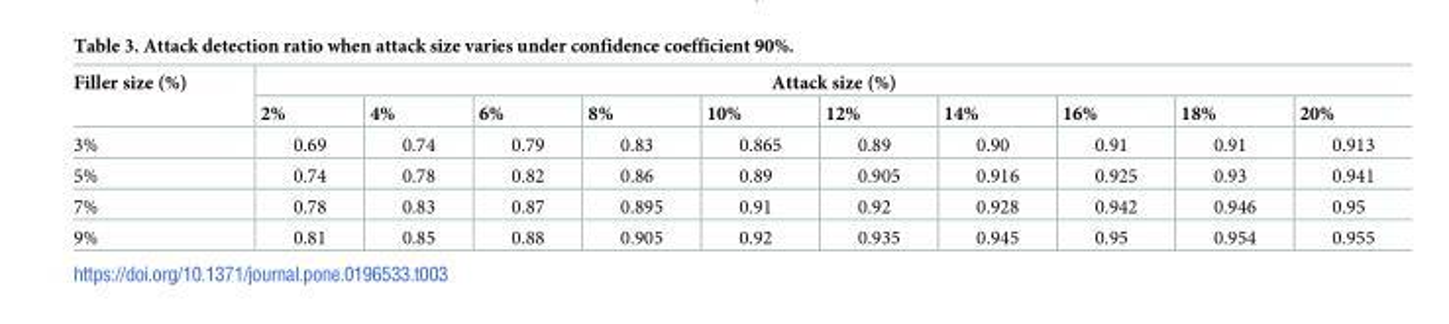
<table><thead><tr><td rowspan="2">Filler size (%)</td><td colspan="10">Attack size (%)</td></tr><tr><td>2%</td><td>4%</td><td>6%</td><td>8%</td><td>10%</td><td>12%</td><td>14%</td><td>16%</td><td>18%</td><td>20%</td></tr></thead><tbody><tr><td>3%</td><td>0.69</td><td>0.74</td><td>0.79</td><td>0.83</td><td>0.865</td><td>0.89</td><td>0.90</td><td>0.91</td><td>0.91</td><td>0.913</td></tr><tr><td>5%</td><td>0.74</td><td>0.78</td><td>0.82</td><td>0.86</td><td>0.89</td><td>0.905</td><td>0.916</td><td>0.925</td><td>0.93</td><td>0.941</td></tr><tr><td>7%</td><td>0.78</td><td>0.83</td><td>0.87</td><td>0.895</td><td>0.91</td><td>0.92</td><td>0.928</td><td>0.942</td><td>0.946</td><td>0.95</td></tr><tr><td>9%</td><td>0.81</td><td>0.85</td><td>0.88</td><td>0.905</td><td>0.92</td><td>0.935</td><td>0.945</td><td>0.95</td><td>0.954</td><td>0.955</td></tr></tbody></table>